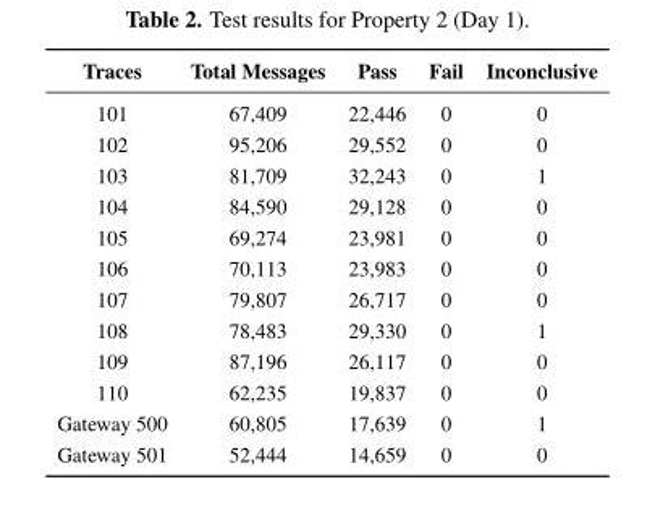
<table><thead><tr><td>Traces</td><td>Total Messages</td><td>Pass</td><td>Fail</td><td>Inconclusive</td></tr></thead><tbody><tr><td>101</td><td>67,409</td><td>22,446</td><td>0</td><td>0</td></tr><tr><td>102</td><td>95,206</td><td>29,552</td><td>0</td><td>0</td></tr><tr><td>103</td><td>81,709</td><td>32,243</td><td>0</td><td>1</td></tr><tr><td>104</td><td>84,590</td><td>29,128</td><td>0</td><td>0</td></tr><tr><td>105</td><td>69,274</td><td>23,981</td><td>0</td><td>0</td></tr><tr><td>106</td><td>70,113</td><td>23,983</td><td>0</td><td>0</td></tr><tr><td>107</td><td>79,807</td><td>26,717</td><td>0</td><td>0</td></tr><tr><td>108</td><td>78,483</td><td>29,330</td><td>0</td><td>1</td></tr><tr><td>109</td><td>87,196</td><td>26,117</td><td>0</td><td>0</td></tr><tr><td>110</td><td>62,235</td><td>19,837</td><td>0</td><td>0</td></tr><tr><td>Gateway 500</td><td>60,805</td><td>17,639</td><td>0</td><td>1</td></tr><tr><td>Gateway 501</td><td>52,444</td><td>14,659</td><td>0</td><td>0</td></tr></tbody></table>